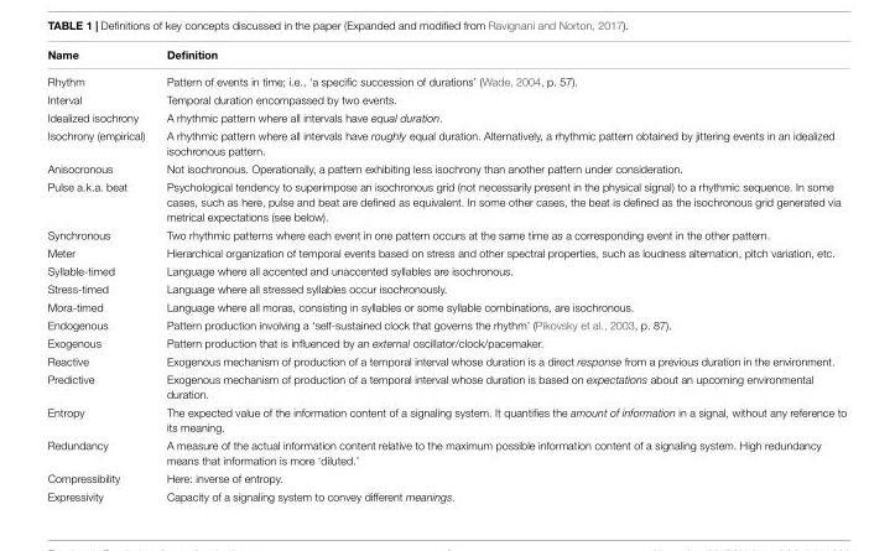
<table><thead><tr><td>Name</td><td>Definition</td></tr></thead><tbody><tr><td>Rhythm</td><td>Pattern of events in time; i.e., ‘a specific succession of durations’ (Wade, 2004, p. 57).</td></tr><tr><td>Interval</td><td>Temporal duration encompassed by two events.</td></tr><tr><td>Idealized isochrony</td><td>A rhythmic pattern where all intervals have equal duration.</td></tr><tr><td>Isochrony (empirical)</td><td>A rhythmic pattern where all intervals have roughly equal duration. Alternatively, a rhythmic pattern obtained by jittering events in an idealized isochronous pattern.</td></tr><tr><td>Anisocronous</td><td>Not isochronous. Operationally, a pattern exhibiting less isochrony than another pattern under consideration.</td></tr><tr><td>Pulse a.k.a. beat</td><td>Psychological tendency to superimpose an isochronous grid (not necessarily present in the physical signal) to a rhythmic sequence. In some cases, such as here, pulse and beat are defined as equivalent. In some other cases, the beat is defined as the isochronous grid generated via metrical expectations (see below).</td></tr><tr><td>Synchronous</td><td>Two rhythmic patterns where each event in one pattern occurs at the same time as a corresponding event in the other pattern.</td></tr><tr><td>Meter</td><td>Hierarchical organization of temporal events based on stress and other spectral properties, such as loudness alternation, pitch variation, etc.</td></tr><tr><td>Syllable-timed</td><td>Language where all accented and unaccented syllables are isochronous.</td></tr><tr><td>Stress-timed</td><td>Language where all stressed syllables occur isochronously.</td></tr><tr><td>Mora-timed</td><td>Language where all moras, consisting in syllables or some syllable combinations, are isochronous.</td></tr><tr><td>Endogenous</td><td>Pattern production involving a ‘self-sustained clock that governs the rhythm’ (Pikovsky et al., 2003, p. 87).</td></tr><tr><td>Exogenous</td><td>Pattern production that is influenced by an external oscillator/clock/pacemaker.</td></tr><tr><td>Reactive</td><td>Exogenous mechanism of production of a temporal interval whose duration is a direct response from a previous duration in the environment.</td></tr><tr><td>Predictive</td><td>Exogenous mechanism of production of a temporal interval whose duration is based on expectations about an upcoming environmental duration.</td></tr><tr><td>Entropy</td><td>The expected value of the information content of a signaling system. It quantifies the amount of information in a signal, without any reference to its meaning.</td></tr><tr><td>Redundancy</td><td>A measure of the actual information content relative to the maximum possible information content of a signaling system. High redundancy means that information is more ‘diluted.’</td></tr><tr><td>Compressibility</td><td>Here: inverse of entropy.</td></tr><tr><td>Expressivity</td><td>Capacity of a signaling system to convey different meanings.</td></tr></tbody></table>